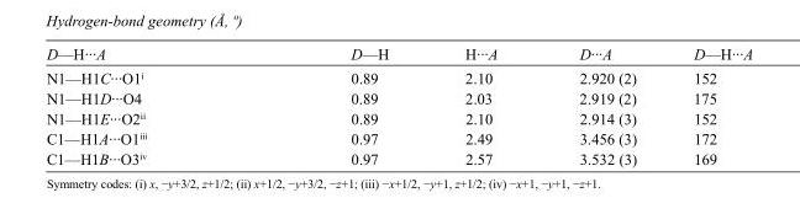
<table><tbody><tr><td>D—H···A</td><td>D—H</td><td>H···A</td><td>D···A</td><td>D—H···A</td></tr><tr><td>N1—H1C···O1<sup>i</sup></td><td>0.89</td><td>2.10</td><td>2.920 (2)</td><td>152</td></tr><tr><td>N1—H1D···O4</td><td>0.89</td><td>2.03</td><td>2.919 (2)</td><td>175</td></tr><tr><td>N1—H1E···O2<sup>ii</sup></td><td>0.89</td><td>2.10</td><td>2.914 (3)</td><td>152</td></tr><tr><td>C1—H1A···O1<sup>iii</sup></td><td>0.97</td><td>2.49</td><td>3.456 (3)</td><td>172</td></tr><tr><td>C1—H1B···O3<sup>iv</sup></td><td>0.97</td><td>2.57</td><td>3.532 (3)</td><td>169</td></tr></tbody></table>